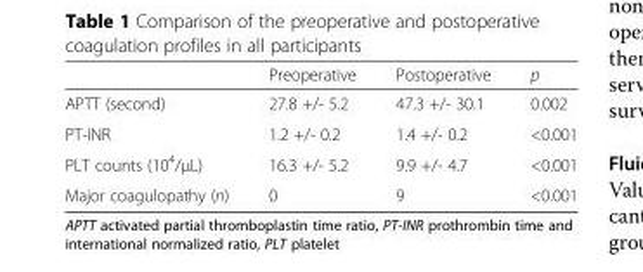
<table><thead><tr><td></td><td>Preoperative</td><td>Postoperative</td><td>p</td></tr></thead><tbody><tr><td>APTT (second)</td><td>27.8 +/- 5.2</td><td>47.3 +/- 30.1</td><td>0.002</td></tr><tr><td>PT-INR</td><td>1.2 +/- 0.2</td><td>1.4 +/- 0.2</td><td>&lt;0.001</td></tr><tr><td>PLT counts (10<sup>4</sup>/μL)</td><td>16.3 +/- 5.2</td><td>9.9 +/- 4.7</td><td>&lt;0.001</td></tr><tr><td>Major coagulopathy (n)</td><td>0</td><td>9</td><td>&lt;0.001</td></tr></tbody></table>